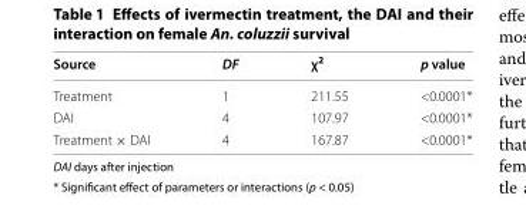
<table><thead><tr><td>Source</td><td>DF</td><td>χ<sup>2</sup></td><td>p value</td></tr></thead><tbody><tr><td>Treatment</td><td>1</td><td>211.55</td><td>&lt;0.0001*</td></tr><tr><td>DAI</td><td>4</td><td>107.97</td><td>&lt;0.0001*</td></tr><tr><td>Treatment × DAI</td><td>4</td><td>167.87</td><td>&lt;0.0001*</td></tr></tbody></table>